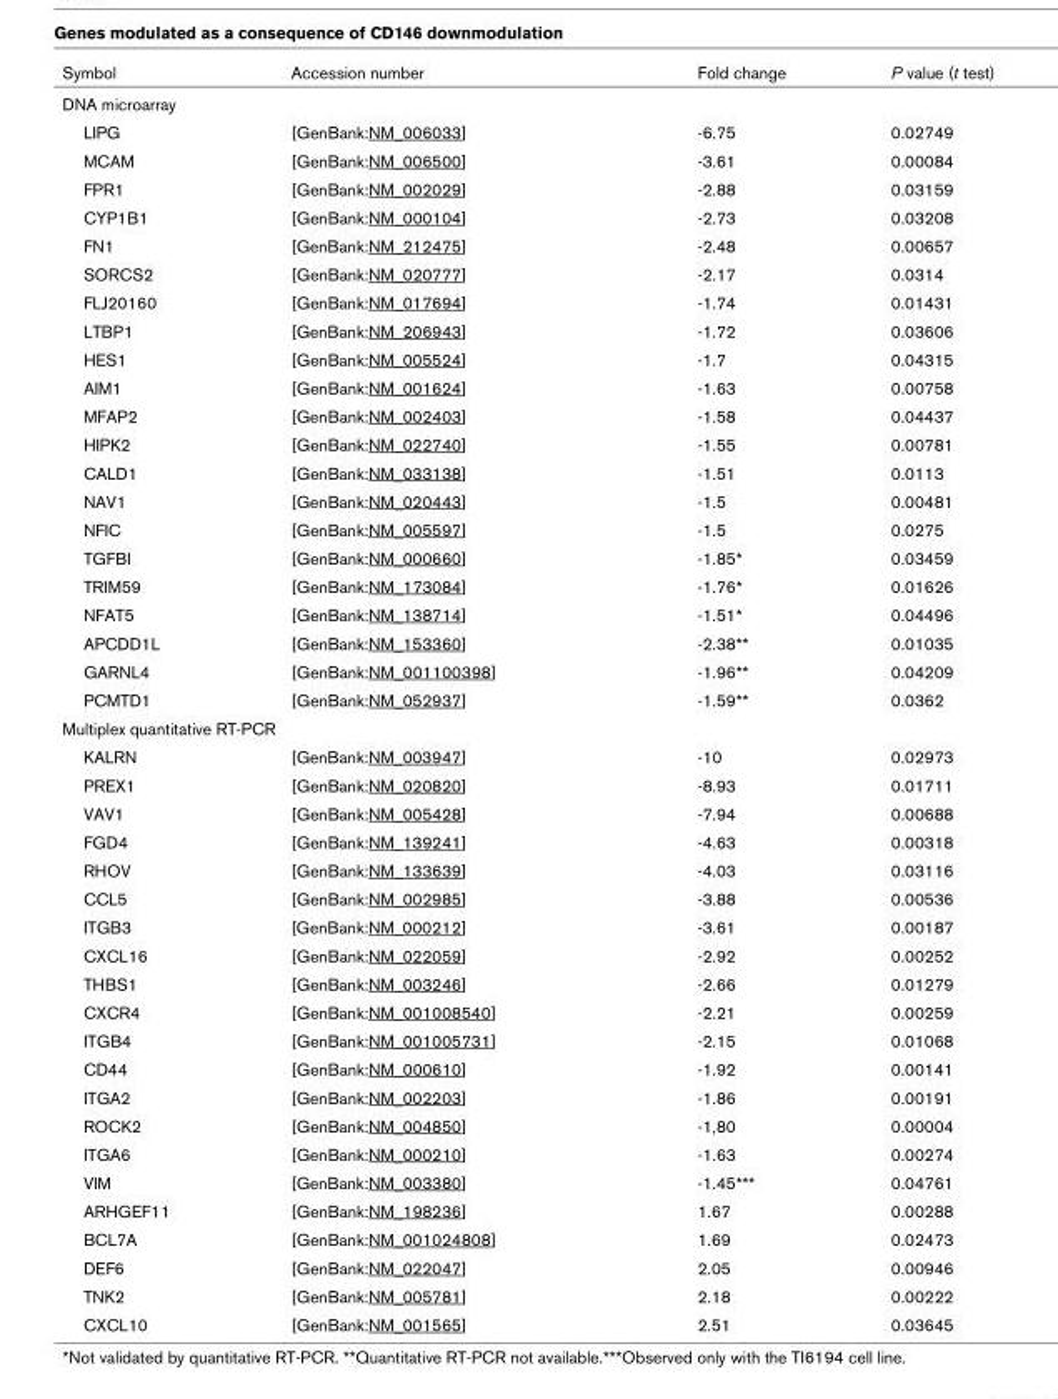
<table><thead><tr><td>Symbol</td><td>Accession number</td><td>Fold change</td><td>P value (t test)</td></tr></thead><tbody><tr><td colspan="4">DNA microarray</td></tr><tr><td>LIPG</td><td>[GenBank:NM_006033]</td><td>-6.75</td><td>0.02749</td></tr><tr><td>MCAM</td><td>[GenBank:NM_006500]</td><td>-3.61</td><td>0.00084</td></tr><tr><td>FPR1</td><td>[GenBank:NM_002029]</td><td>-2.88</td><td>0.03159</td></tr><tr><td>CYP1B1</td><td>[GenBank:NM_000104]</td><td>-2.73</td><td>0.03208</td></tr><tr><td>FN1</td><td>[GenBank:NM_212475]</td><td>-2.48</td><td>0.00657</td></tr><tr><td>SORCS2</td><td>[GenBank:NM_020777]</td><td>-2.17</td><td>0.0314</td></tr><tr><td>FLJ20160</td><td>[GenBank:NM_017694]</td><td>-1.74</td><td>0.01431</td></tr><tr><td>LTBP1</td><td>[GenBank:NM_206943]</td><td>-1.72</td><td>0.03606</td></tr><tr><td>HES1</td><td>[GenBank:NM_005524]</td><td>-1.7</td><td>0.04315</td></tr><tr><td>AIM1</td><td>[GenBank:NM_001624]</td><td>-1.63</td><td>0.00758</td></tr><tr><td>MFAP2</td><td>[GenBank:NM_002403]</td><td>-1.58</td><td>0.04437</td></tr><tr><td>HIPK2</td><td>[GenBank:NM_022740]</td><td>-1.55</td><td>0.00781</td></tr><tr><td>CALD1</td><td>[GenBank:NM_033138]</td><td>-1.51</td><td>0.0113</td></tr><tr><td>NAV1</td><td>[GenBank:NM_020443]</td><td>-1.5</td><td>0.00481</td></tr><tr><td>NFIC</td><td>[GenBank:NM_005597]</td><td>-1.5</td><td>0.0275</td></tr><tr><td>TGFBI</td><td>[GenBank:NM_000660]</td><td>-1.85*</td><td>0.03459</td></tr><tr><td>TRIM59</td><td>[GenBank:NM_173084]</td><td>-1.76*</td><td>0.01626</td></tr><tr><td>NFAT5</td><td>[GenBank:NM_138714]</td><td>-1.51*</td><td>0.04496</td></tr><tr><td>APCDD1L</td><td>[GenBank:NM_153360]</td><td>-2.38**</td><td>0.01035</td></tr><tr><td>GARNL4</td><td>[GenBank:NM_001100398]</td><td>-1.96**</td><td>0.04209</td></tr><tr><td>PCMTD1</td><td>[GenBank:NM_052937]</td><td>-1.59**</td><td>0.0362</td></tr><tr><td colspan="4">Multiplex quantitative RT-PCR</td></tr><tr><td>KALRN</td><td>[GenBank:NM_003947]</td><td>-10</td><td>0.02973</td></tr><tr><td>PREX1</td><td>[GenBank:NM_020820]</td><td>-8.93</td><td>0.01711</td></tr><tr><td>VAV1</td><td>[GenBank:NM_005428]</td><td>-7.94</td><td>0.00688</td></tr><tr><td>FGD4</td><td>[GenBank:NM_139241]</td><td>-4.63</td><td>0.00318</td></tr><tr><td>RHOV</td><td>[GenBank:NM_133639]</td><td>-4.03</td><td>0.03116</td></tr><tr><td>CCL5</td><td>[GenBank:NM_002985]</td><td>-3.88</td><td>0.00536</td></tr><tr><td>ITGB3</td><td>[GenBank:NM_000212]</td><td>-3.61</td><td>0.00187</td></tr><tr><td>CXCL16</td><td>[GenBank:NM_022059]</td><td>-2.92</td><td>0.00252</td></tr><tr><td>THBS1</td><td>[GenBank:NM_003246]</td><td>-2.66</td><td>0.01279</td></tr><tr><td>CXCR4</td><td>[GenBank:NM_001008540]</td><td>-2.21</td><td>0.00259</td></tr><tr><td>ITGB4</td><td>[GenBank:NM_001005731]</td><td>-2.15</td><td>0.01068</td></tr><tr><td>CD44</td><td>[GenBank:NM_000610]</td><td>-1.92</td><td>0.00141</td></tr><tr><td>ITGA2</td><td>[GenBank:NM_002203]</td><td>-1.86</td><td>0.00191</td></tr><tr><td>ROCK2</td><td>[GenBank:NM_004850]</td><td>-1,80</td><td>0.00004</td></tr><tr><td>ITGA6</td><td>[GenBank:NM_000210]</td><td>-1.63</td><td>0.00274</td></tr><tr><td>VIM</td><td>[GenBank:NM_003380]</td><td>-1.45***</td><td>0.04761</td></tr><tr><td>ARHGEF11</td><td>[GenBank:NM_198236]</td><td>1.67</td><td>0.00288</td></tr><tr><td>BCL7A</td><td>[GenBank:NM_001024808]</td><td>1.69</td><td>0.02473</td></tr><tr><td>DEF6</td><td>[GenBank:NM_022047]</td><td>2.05</td><td>0.00946</td></tr><tr><td>TNK2</td><td>[GenBank:NM_005781]</td><td>2.18</td><td>0.00222</td></tr><tr><td>CXCL10</td><td>[GenBank:NM_001565]</td><td>2.51</td><td>0.03645</td></tr></tbody></table>